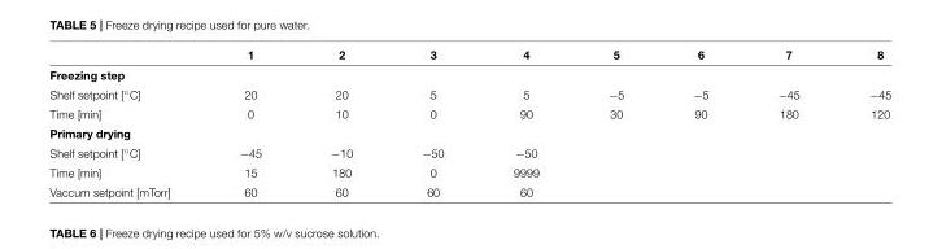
<table><thead><tr><td></td><td>1</td><td>2</td><td>3</td><td>4</td><td>5</td><td>6</td><td>7</td><td>8</td></tr></thead><tbody><tr><td colspan="9">Freezing step</td></tr><tr><td>Shelf setpoint [◦C]</td><td>20</td><td>20</td><td>5</td><td>5</td><td>−5</td><td>−5</td><td>−45</td><td>−45</td></tr><tr><td>Time [min]</td><td>0</td><td>10</td><td>0</td><td>90</td><td>30</td><td>90</td><td>180</td><td>120</td></tr><tr><td colspan="9">Primary drying</td></tr><tr><td>Shelf setpoint [◦C]</td><td>−45</td><td>−10</td><td>−50</td><td>−50</td><td></td><td></td><td></td><td></td></tr><tr><td>Time [min]</td><td>15</td><td>180</td><td>0</td><td>9999</td><td></td><td></td><td></td><td></td></tr><tr><td>Vaccum setpoint [mTorr]</td><td>60</td><td>60</td><td>60</td><td>60</td><td></td><td></td><td></td><td></td></tr></tbody></table>